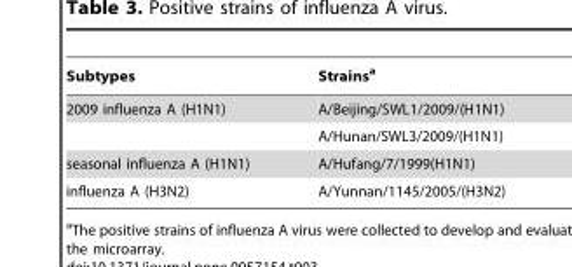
<table><thead><tr><td>Subtypes</td><td>Strains<sup>a</sup></td></tr></thead><tbody><tr><td rowspan="2">2009 influenza A (H1N1)</td><td>A/Beijing/SWL1/2009/(H1N1)</td></tr><tr><td>A/Hunan/SWL3/2009/(H1N1)</td></tr><tr><td>seasonal influenza A (H1N1)</td><td>A/Hufang/7/1999(H1N1)</td></tr><tr><td>influenza A (H3N2)</td><td>A/Yunnan/1145/2005/(H3N2)</td></tr></tbody></table>